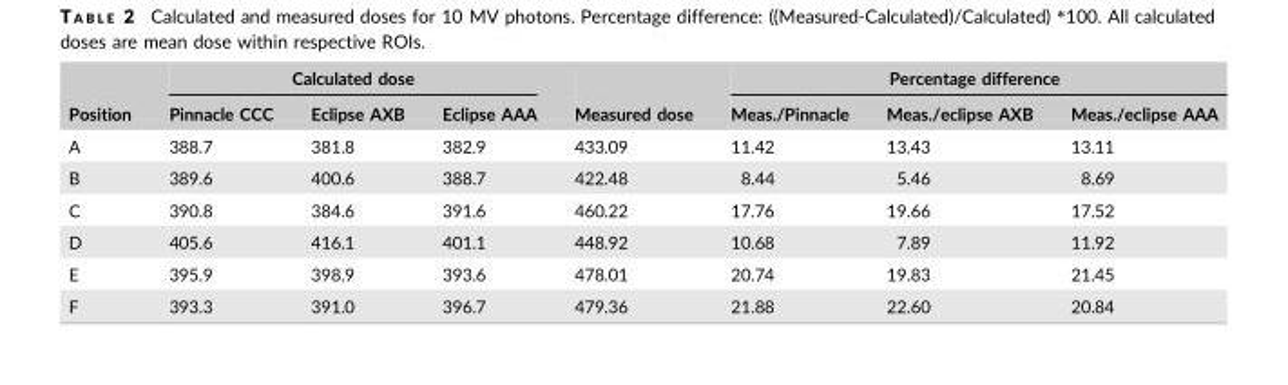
<table><thead><tr><td rowspan="2">Position</td><td colspan="3">Calculated dose</td><td rowspan="2">Measured dose</td><td colspan="3">Percentage difference</td></tr><tr><td>Pinnacle CCC</td><td>Eclipse AXB</td><td>Eclipse AAA</td><td>Meas./Pinnacle</td><td>Meas./eclipse AXB</td><td>Meas./eclipse AAA</td></tr></thead><tbody><tr><td>A</td><td>388.7</td><td>381.8</td><td>382.9</td><td>433.09</td><td>11.42</td><td>13.43</td><td>13.11</td></tr><tr><td>B</td><td>389.6</td><td>400.6</td><td>388.7</td><td>422.48</td><td>8.44</td><td>5.46</td><td>8.69</td></tr><tr><td>C</td><td>390.8</td><td>384.6</td><td>391.6</td><td>460.22</td><td>17.76</td><td>19.66</td><td>17.52</td></tr><tr><td>D</td><td>405.6</td><td>416.1</td><td>401.1</td><td>448.92</td><td>10.68</td><td>7.89</td><td>11.92</td></tr><tr><td>E</td><td>395.9</td><td>398.9</td><td>393.6</td><td>478.01</td><td>20.74</td><td>19.83</td><td>21.45</td></tr><tr><td>F</td><td>393.3</td><td>391.0</td><td>396.7</td><td>479.36</td><td>21.88</td><td>22.60</td><td>20.84</td></tr></tbody></table>